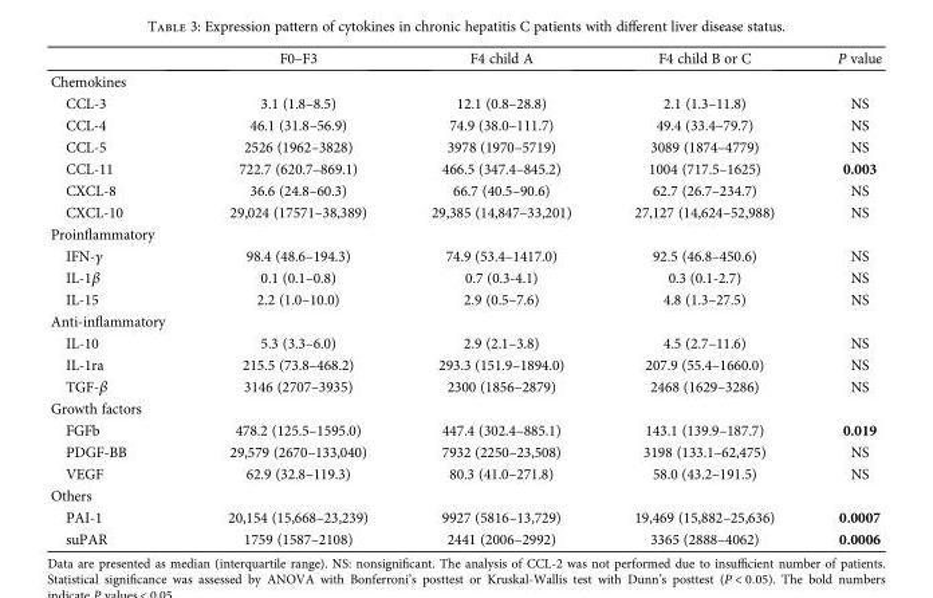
<table><thead><tr><td></td><td>F0–F3</td><td>F4 child A</td><td>F4 child B or C</td><td>P value</td></tr></thead><tbody><tr><td colspan="5">Chemokines</td></tr><tr><td>CCL-3</td><td>3.1 (1.8–8.5)</td><td>12.1 (0.8–28.8)</td><td>2.1 (1.3–11.8)</td><td>NS</td></tr><tr><td>CCL-4</td><td>46.1 (31.8–56.9)</td><td>74.9 (38.0–111.7)</td><td>49.4 (33.4–79.7)</td><td>NS</td></tr><tr><td>CCL-5</td><td>2526 (1962–3828)</td><td>3978 (1970–5719)</td><td>3089 (1874–4779)</td><td>NS</td></tr><tr><td>CCL-11</td><td>722.7 (620.7–869.1)</td><td>466.5 (347.4–845.2)</td><td>1004 (717.5–1625)</td><td>0.003</td></tr><tr><td>CXCL-8</td><td>36.6 (24.8–60.3)</td><td>66.7 (40.5–90.6)</td><td>62.7 (26.7–234.7)</td><td>NS</td></tr><tr><td>CXCL-10</td><td>29,024 (17571–38,389)</td><td>29,385 (14,847–33,201)</td><td>27,127 (14,624–52,988)</td><td>NS</td></tr><tr><td colspan="5">Proinflammatory</td></tr><tr><td>IFN-γ</td><td>98.4 (48.6–194.3)</td><td>74.9 (53.4–1417.0)</td><td>92.5 (46.8–450.6)</td><td>NS</td></tr><tr><td>IL-1β</td><td>0.1 (0.1–0.8)</td><td>0.7 (0.3-4.1)</td><td>0.3 (0.1-2.7)</td><td>NS</td></tr><tr><td>IL-15</td><td>2.2 (1.0–10.0)</td><td>2.9 (0.5–7.6)</td><td>4.8 (1.3–27.5)</td><td>NS</td></tr><tr><td colspan="5">Anti-inflammatory</td></tr><tr><td>IL-10</td><td>5.3 (3.3–6.0)</td><td>2.9 (2.1–3.8)</td><td>4.5 (2.7–11.6)</td><td>NS</td></tr><tr><td>IL-1ra</td><td>215.5 (73.8–468.2)</td><td>293.3 (151.9–1894.0)</td><td>207.9 (55.4–1660.0)</td><td>NS</td></tr><tr><td>TGF-β</td><td>3146 (2707–3935)</td><td>2300 (1856–2879)</td><td>2468 (1629–3286)</td><td>NS</td></tr><tr><td colspan="5">Growth factors</td></tr><tr><td>FGFb</td><td>478.2 (125.5–1595.0)</td><td>447.4 (302.4–885.1)</td><td>143.1 (139.9–187.7)</td><td>0.019</td></tr><tr><td>PDGF-BB</td><td>29,579 (2670–133,040)</td><td>7932 (2250–23,508)</td><td>3198 (133.1–62,475)</td><td>NS</td></tr><tr><td>VEGF</td><td>62.9 (32.8–119.3)</td><td>80.3 (41.0–271.8)</td><td>58.0 (43.2–191.5)</td><td>NS</td></tr><tr><td colspan="5">Others</td></tr><tr><td>PAI-1</td><td>20,154 (15,668–23,239)</td><td>9927 (5816–13,729)</td><td>19,469 (15,882–25,636)</td><td>0.0007</td></tr><tr><td>suPAR</td><td>1759 (1587–2108)</td><td>2441 (2006–2992)</td><td>3365 (2888–4062)</td><td>0.0006</td></tr></tbody></table>